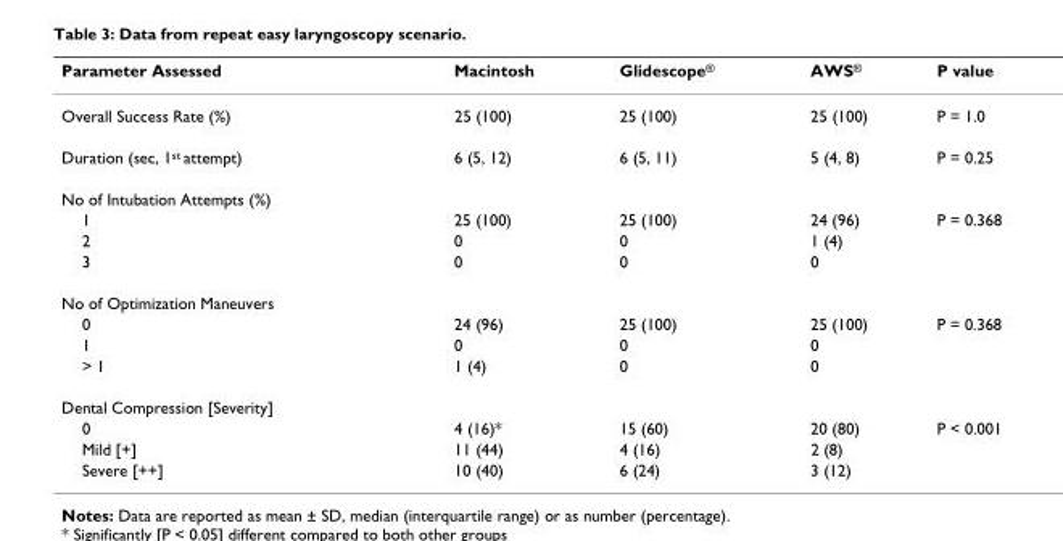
<table><thead><tr><td>Parameter Assessed</td><td>Macintosh</td><td>Glidescope<sup>®</sup></td><td>AWS<sup>®</sup></td><td>P value</td></tr></thead><tbody><tr><td>Overall Success Rate (%)</td><td>25 (100)</td><td>25 (100)</td><td>25 (100)</td><td>P = 1.0</td></tr><tr><td>Duration (sec, 1<sup>st</sup> attempt)</td><td>6 (5, 12)</td><td>6 (5, 11)</td><td>5 (4, 8)</td><td>P = 0.25</td></tr><tr><td colspan="5">No of Intubation Attempts (%)</td></tr><tr><td>1</td><td>25 (100)</td><td>25 (100)</td><td>24 (96)</td><td>P = 0.368</td></tr><tr><td>2</td><td>0</td><td>0</td><td>1 (4)</td><td></td></tr><tr><td>3</td><td>0</td><td>0</td><td>0</td><td></td></tr><tr><td colspan="5">No of Optimization Maneuvers</td></tr><tr><td>0</td><td>24 (96)</td><td>25 (100)</td><td>25 (100)</td><td>P = 0.368</td></tr><tr><td>1</td><td>0</td><td>0</td><td>0</td><td></td></tr><tr><td>&gt; 1</td><td>1 (4)</td><td>0</td><td>0</td><td></td></tr><tr><td colspan="5">Dental Compression [Severity]</td></tr><tr><td>0</td><td>4 (16)*</td><td>15 (60)</td><td>20 (80)</td><td>P &lt; 0.001</td></tr><tr><td>Mild [+]</td><td>11 (44)</td><td>4 (16)</td><td>2 (8)</td><td></td></tr><tr><td>Severe [++]</td><td>10 (40)</td><td>6 (24)</td><td>3 (12)</td><td></td></tr></tbody></table>